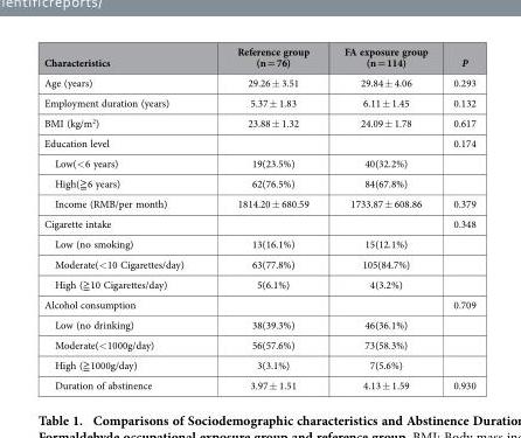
<table><thead><tr><td>Characteristics</td><td>Reference group (n = 76)</td><td>FA exposure group (n = 114)</td><td>P</td></tr></thead><tbody><tr><td>Age (years)</td><td>29.26 ± 3.51</td><td>29.84 ± 4.06</td><td>0.293</td></tr><tr><td>Employment duration (years)</td><td>5.37 ± 1.83</td><td>6.11 ± 1.45</td><td>0.132</td></tr><tr><td>BMI (kg/m<sup>2</sup>)</td><td>23.88 ± 1.32</td><td>24.09 ± 1.78</td><td>0.617</td></tr><tr><td>Education level</td><td></td><td></td><td>0.174</td></tr><tr><td>Low(&lt; 6 years)</td><td>19(23.5%)</td><td>40(32.2%)</td><td></td></tr><tr><td>High(≧ 6 years)</td><td>62(76.5%)</td><td>84(67.8%)</td><td></td></tr><tr><td>Income (RMB/per month)</td><td>1814.20 ± 680.59</td><td>1733.87 ± 608.86</td><td>0.379</td></tr><tr><td>Cigarette intake</td><td></td><td></td><td>0.348</td></tr><tr><td>Low (no smoking)</td><td>13(16.1%)</td><td>15(12.1%)</td><td></td></tr><tr><td>Moderate(&lt; 10 Cigarettes/day)</td><td>63(77.8%)</td><td>105(84.7%)</td><td></td></tr><tr><td>High (≧ 10 Cigarettes/day)</td><td>5(6.1%)</td><td>4(3.2%)</td><td></td></tr><tr><td>Alcohol consumption</td><td></td><td></td><td>0.709</td></tr><tr><td>Low (no drinking)</td><td>38(39.3%)</td><td>46(36.1%)</td><td></td></tr><tr><td>Moderate(&lt; 1000g/day)</td><td>56(57.6%)</td><td>73(58.3%)</td><td></td></tr><tr><td>High (≧ 1000g/day)</td><td>3(3.1%)</td><td>7(5.6%)</td><td></td></tr><tr><td>Duration of abstinence</td><td>3.97 ± 1.51</td><td>4.13 ± 1.59</td><td>0.930</td></tr></tbody></table>